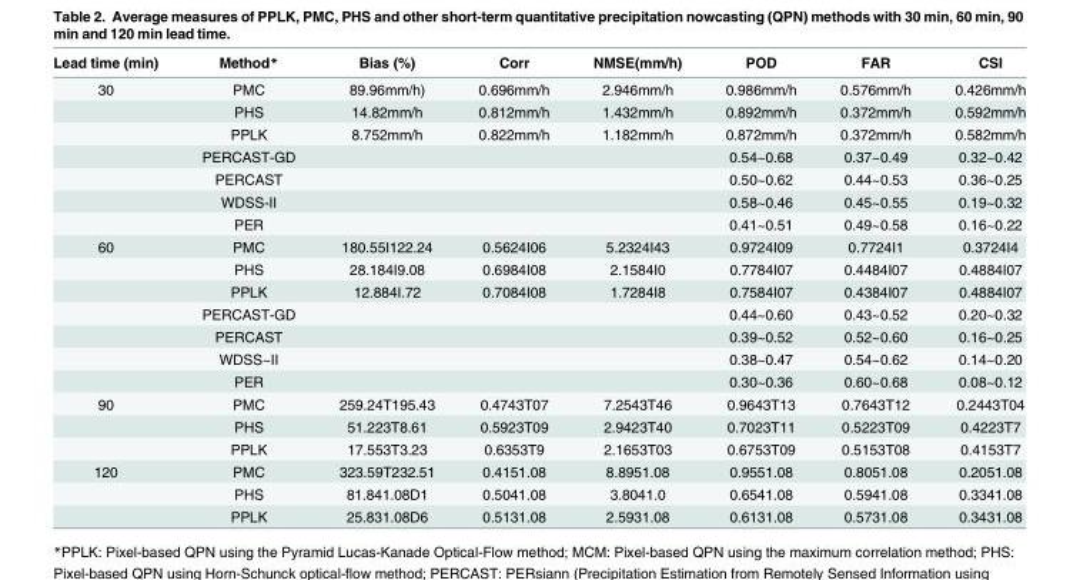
<table><thead><tr><td>Lead time (min)</td><td>Method*</td><td>Bias (%)</td><td>Corr</td><td>NMSE(mm/h)</td><td>POD</td><td>FAR</td><td>CSI</td></tr></thead><tbody><tr><td rowspan="7">30</td><td>PMC</td><td>89.96mm/h)</td><td>0.696mm/h</td><td>2.946mm/h</td><td>0.986mm/h</td><td>0.576mm/h</td><td>0.426mm/h</td></tr><tr><td>PHS</td><td>14.82mm/h</td><td>0.812mm/h</td><td>1.432mm/h</td><td>0.892mm/h</td><td>0.372mm/h</td><td>0.592mm/h</td></tr><tr><td>PPLK</td><td>8.752mm/h</td><td>0.822mm/h</td><td>1.182mm/h</td><td>0.872mm/h</td><td>0.372mm/h</td><td>0.582mm/h</td></tr><tr><td>PERCAST-GD</td><td></td><td></td><td></td><td>0.54~0.68</td><td>0.37~0.49</td><td>0.32~0.42</td></tr><tr><td>PERCAST</td><td></td><td></td><td></td><td>0.50~0.62</td><td>0.44~0.53</td><td>0.36~0.25</td></tr><tr><td>WDSS-II</td><td></td><td></td><td></td><td>0.58~0.46</td><td>0.45~0.55</td><td>0.19~0.32</td></tr><tr><td>PER</td><td></td><td></td><td></td><td>0.41~0.51</td><td>0.49~0.58</td><td>0.16~0.22</td></tr><tr><td rowspan="7">60</td><td>PMC</td><td>180.55I122.24</td><td>0.5624I06</td><td>5.2324I43</td><td>0.9724I09</td><td>0.7724I1</td><td>0.3724I4</td></tr><tr><td>PHS</td><td>28.184I9.08</td><td>0.6984I08</td><td>2.1584I0</td><td>0.7784I07</td><td>0.4484I07</td><td>0.4884I07</td></tr><tr><td>PPLK</td><td>12.884I.72</td><td>0.7084I08</td><td>1.7284I8</td><td>0.7584I07</td><td>0.4384I07</td><td>0.4884I07</td></tr><tr><td>PERCAST-GD</td><td></td><td></td><td></td><td>0.44~0.60</td><td>0.43~0.52</td><td>0.20~0.32</td></tr><tr><td>PERCAST</td><td></td><td></td><td></td><td>0.39~0.52</td><td>0.52~0.60</td><td>0.16~0.25</td></tr><tr><td>WDSS~II</td><td></td><td></td><td></td><td>0.38~0.47</td><td>0.54~0.62</td><td>0.14~0.20</td></tr><tr><td>PER</td><td></td><td></td><td></td><td>0.30~0.36</td><td>0.60~0.68</td><td>0.08~0.12</td></tr><tr><td rowspan="3">90</td><td>PMC</td><td>259.24T195.43</td><td>0.4743T07</td><td>7.2543T46</td><td>0.9643T13</td><td>0.7643T12</td><td>0.2443T04</td></tr><tr><td>PHS</td><td>51.223T8.61</td><td>0.5923T09</td><td>2.9423T40</td><td>0.7023T11</td><td>0.5223T09</td><td>0.4223T7</td></tr><tr><td>PPLK</td><td>17.553T3.23</td><td>0.6353T9</td><td>2.1653T03</td><td>0.6753T09</td><td>0.5153T08</td><td>0.4153T7</td></tr><tr><td rowspan="3">120</td><td>PMC</td><td>323.59T232.51</td><td>0.4151.08</td><td>8.8951.08</td><td>0.9551.08</td><td>0.8051.08</td><td>0.2051.08</td></tr><tr><td>PHS</td><td>81.841.08D1</td><td>0.5041.08</td><td>3.8041.0</td><td>0.6541.08</td><td>0.5941.08</td><td>0.3341.08</td></tr><tr><td>PPLK</td><td>25.831.08D6</td><td>0.5131.08</td><td>2.5931.08</td><td>0.6131.08</td><td>0.5731.08</td><td>0.3431.08</td></tr></tbody></table>